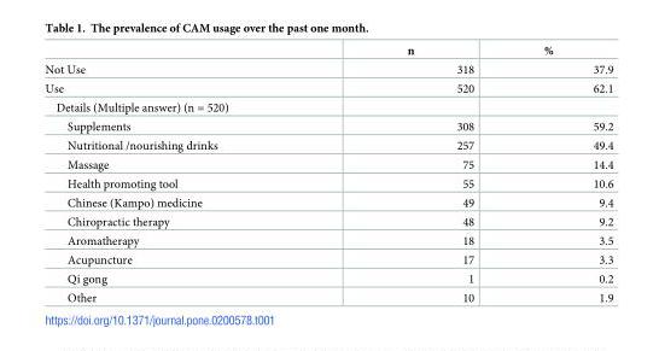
<table><thead><tr><td></td><td>n</td><td>%</td></tr></thead><tbody><tr><td>Not Use</td><td>318</td><td>37.9</td></tr><tr><td>Use</td><td>520</td><td>62.1</td></tr><tr><td colspan="3">Details (Multiple answer) (n = 520)</td></tr><tr><td>Supplements</td><td>308</td><td>59.2</td></tr><tr><td>Nutritional /nourishing drinks</td><td>257</td><td>49.4</td></tr><tr><td>Massage</td><td>75</td><td>14.4</td></tr><tr><td>Health promoting tool</td><td>55</td><td>10.6</td></tr><tr><td>Chinese (Kampo) medicine</td><td>49</td><td>9.4</td></tr><tr><td>Chiropractic therapy</td><td>48</td><td>9.2</td></tr><tr><td>Aromatherapy</td><td>18</td><td>3.5</td></tr><tr><td>Acupuncture</td><td>17</td><td>3.3</td></tr><tr><td>Qi gong</td><td>1</td><td>0.2</td></tr><tr><td>Other</td><td>10</td><td>1.9</td></tr></tbody></table>